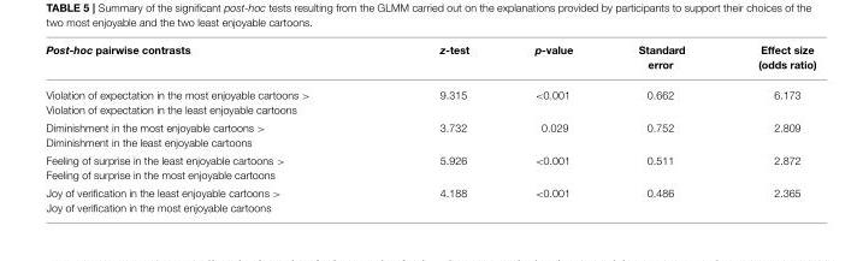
<table><thead><tr><td>Post-hoc pairwise contrasts</td><td>z-test</td><td>p-value</td><td>Standard error</td><td>Effect size (odds ratio)</td></tr></thead><tbody><tr><td>Violation of expectation in the most enjoyable cartoons &gt; Violation of expectation in the least enjoyable cartoons</td><td>9.315</td><td>&lt;0.001</td><td>0.662</td><td>6.173</td></tr><tr><td>Diminishment in the most enjoyable cartoons &gt; Diminishment in the least enjoyable cartoons</td><td>3.732</td><td>0.029</td><td>0.752</td><td>2.809</td></tr><tr><td>Feeling of surprise in the least enjoyable cartoons &gt; Feeling of surprise in the most enjoyable cartoons</td><td>5.926</td><td>&lt;0.001</td><td>0.511</td><td>2.872</td></tr><tr><td>Joy of verification in the least enjoyable cartoons &gt; Joy of verification in the most enjoyable cartoons</td><td>4.188</td><td>&lt;0.001</td><td>0.486</td><td>2.365</td></tr></tbody></table>